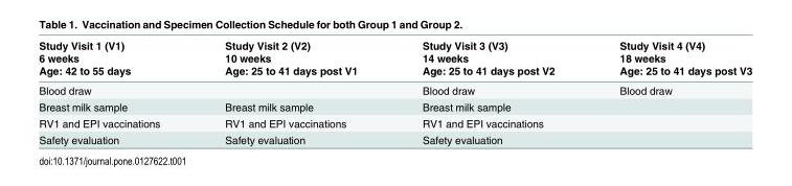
<table><thead><tr><td rowspan="3">Study Visit 1 (V1) 6 weeks Age: 42 to 55 days</td><td rowspan="3">Study Visit 2 (V2) 10 weeks Age: 25 to 41 days post V1</td><td rowspan="3">Study Visit 3 (V3) 14 weeks Age: 25 to 41 days post V2</td><td rowspan="3">Study Visit 4 (V4) 18 weeks Age: 25 to 41 days post V3</td></tr><tr></tr><tr></tr></thead><tbody><tr><td>Blood draw</td><td></td><td>Blood draw</td><td>Blood draw</td></tr><tr><td>Breast milk sample</td><td>Breast milk sample</td><td>Breast milk sample</td><td></td></tr><tr><td>RV1 and EPI vaccinations</td><td>RV1 and EPI vaccinations</td><td>RV1 and EPI vaccinations</td><td></td></tr><tr><td>Safety evaluation</td><td>Safety evaluation</td><td>Safety evaluation</td><td></td></tr></tbody></table>